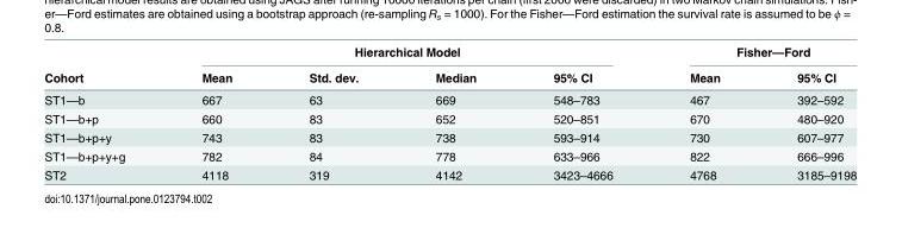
<table><thead><tr><td rowspan="2">Cohort</td><td colspan="4">Hierarchical Model</td><td colspan="2">Fisher—Ford</td></tr><tr><td>Mean</td><td>Std. dev.</td><td>Median</td><td>95% CI</td><td>Mean</td><td>95% CI</td></tr></thead><tbody><tr><td>ST1—b</td><td>667</td><td>63</td><td>669</td><td>548–783</td><td>467</td><td>392–592</td></tr><tr><td>ST1—b+p</td><td>660</td><td>83</td><td>652</td><td>520–851</td><td>670</td><td>480–920</td></tr><tr><td>ST1—b+p+y</td><td>743</td><td>83</td><td>738</td><td>593–914</td><td>730</td><td>607–977</td></tr><tr><td>ST1—b+p+y+g</td><td>782</td><td>84</td><td>778</td><td>633–966</td><td>822</td><td>666–996</td></tr><tr><td>ST2</td><td>4118</td><td>319</td><td>4142</td><td>3423–4666</td><td>4768</td><td>3185–9198</td></tr></tbody></table>